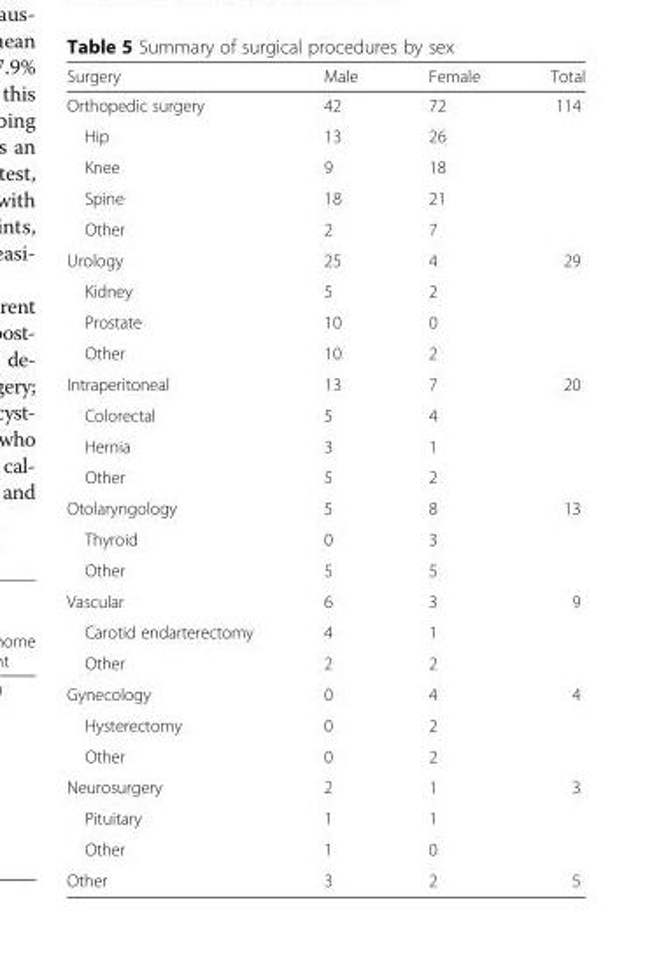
<table><thead><tr><td>Surgery</td><td>Male</td><td>Female</td><td>Total</td></tr></thead><tbody><tr><td>Orthopedic surgery</td><td>42</td><td>72</td><td>114</td></tr><tr><td>Hip</td><td>13</td><td>26</td><td></td></tr><tr><td>Knee</td><td>9</td><td>18</td><td></td></tr><tr><td>Spine</td><td>18</td><td>21</td><td></td></tr><tr><td>Other</td><td>2</td><td>7</td><td></td></tr><tr><td>Urology</td><td>25</td><td>4</td><td>29</td></tr><tr><td>Kidney</td><td>5</td><td>2</td><td></td></tr><tr><td>Prostate</td><td>10</td><td>0</td><td></td></tr><tr><td>Other</td><td>10</td><td>2</td><td></td></tr><tr><td>Intraperitoneal</td><td>13</td><td>7</td><td>20</td></tr><tr><td>Colorectal</td><td>5</td><td>4</td><td></td></tr><tr><td>Hernia</td><td>3</td><td>1</td><td></td></tr><tr><td>Other</td><td>5</td><td>2</td><td></td></tr><tr><td>Otolaryngology</td><td>5</td><td>8</td><td>13</td></tr><tr><td>Thyroid</td><td>0</td><td>3</td><td></td></tr><tr><td>Other</td><td>5</td><td>5</td><td></td></tr><tr><td>Vascular</td><td>6</td><td>3</td><td>9</td></tr><tr><td>Carotid endarterectomy</td><td>4</td><td>1</td><td></td></tr><tr><td>Other</td><td>2</td><td>2</td><td></td></tr><tr><td>Gynecology</td><td>0</td><td>4</td><td>4</td></tr><tr><td>Hysterectomy</td><td>0</td><td>2</td><td></td></tr><tr><td>Other</td><td>0</td><td>2</td><td></td></tr><tr><td>Neurosurgery</td><td>2</td><td>1</td><td>3</td></tr><tr><td>Pituitary</td><td>1</td><td>1</td><td></td></tr><tr><td>Other</td><td>1</td><td>0</td><td></td></tr><tr><td>Other</td><td>3</td><td>2</td><td>5</td></tr></tbody></table>